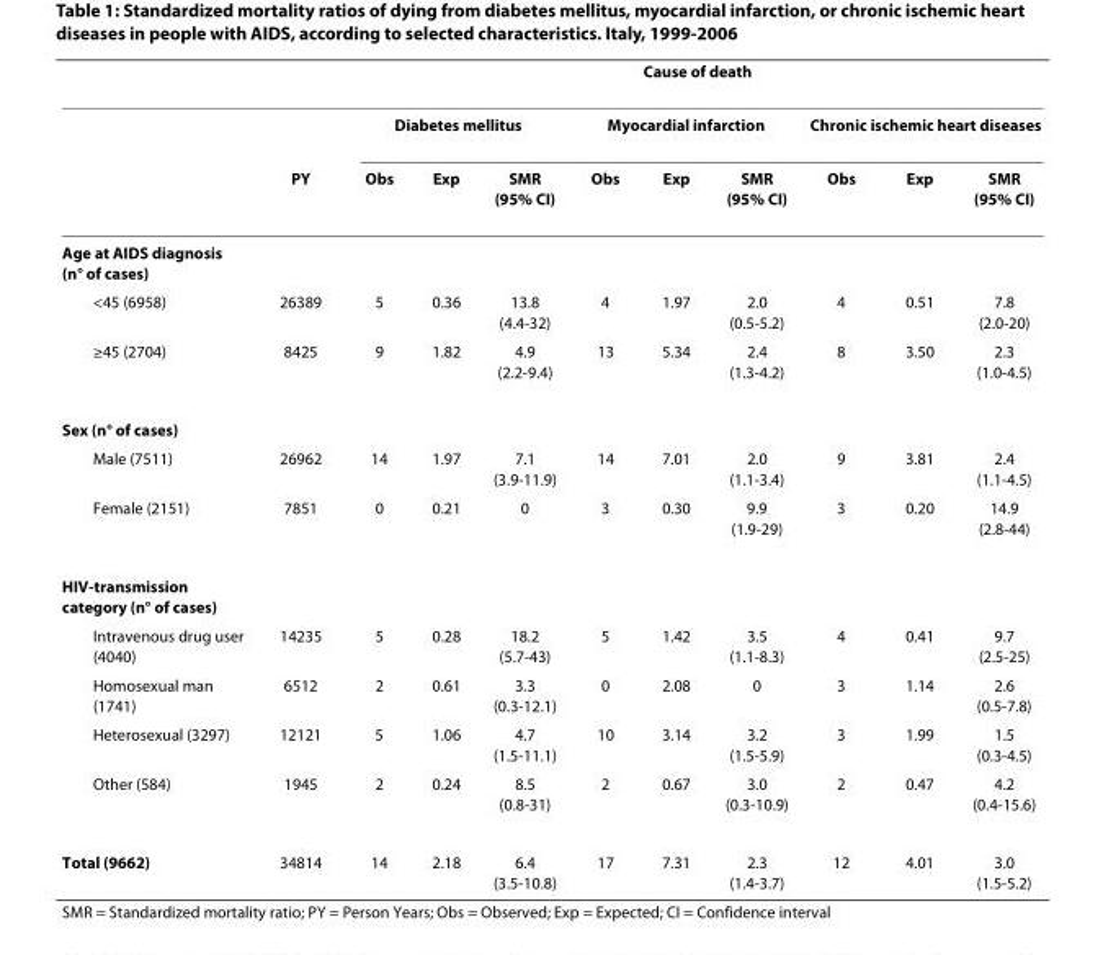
<table><thead><tr><td rowspan="3"></td><td rowspan="3">PY</td><td colspan="9">Cause of death</td></tr><tr><td colspan="3">Diabetes mellitus</td><td colspan="3">Myocardial infarction</td><td colspan="3">Chronic ischemic heart diseases</td></tr><tr><td>Obs</td><td>Exp</td><td>SMR (95% CI)</td><td>Obs</td><td>Exp</td><td>SMR (95% CI)</td><td>Obs</td><td>Exp</td><td>SMR (95% CI)</td></tr></thead><tbody><tr><td colspan="11">Age at AIDS diagnosis (n° of cases)</td></tr><tr><td>&lt;45 (6958)</td><td>26389</td><td>5</td><td>0.36</td><td>13.8 (4.4-32)</td><td>4</td><td>1.97</td><td>2.0 (0.5-5.2)</td><td>4</td><td>0.51</td><td>7.8 (2.0-20)</td></tr><tr><td>≥45 (2704)</td><td>8425</td><td>9</td><td>1.82</td><td>4.9 (2.2-9.4)</td><td>13</td><td>5.34</td><td>2.4 (1.3-4.2)</td><td>8</td><td>3.50</td><td>2.3 (1.0-4.5)</td></tr><tr><td colspan="11">Sex (n° of cases)</td></tr><tr><td>Male (7511)</td><td>26962</td><td>14</td><td>1.97</td><td>7.1 (3.9-11.9)</td><td>14</td><td>7.01</td><td>2.0 (1.1-3.4)</td><td>9</td><td>3.81</td><td>2.4 (1.1-4.5)</td></tr><tr><td>Female (2151)</td><td>7851</td><td>0</td><td>0.21</td><td>0</td><td>3</td><td>0.30</td><td>9.9 (1.9-29)</td><td>3</td><td>0.20</td><td>14.9 (2.8-44)</td></tr><tr><td colspan="11">HIV-transmission category (n° of cases)</td></tr><tr><td>Intravenous drug user (4040)</td><td>14235</td><td>5</td><td>0.28</td><td>18.2 (5.7-43)</td><td>5</td><td>1.42</td><td>3.5 (1.1-8.3)</td><td>4</td><td>0.41</td><td>9.7 (2.5-25)</td></tr><tr><td>Homosexual man (1741)</td><td>6512</td><td>2</td><td>0.61</td><td>3.3 (0.3-12.1)</td><td>0</td><td>2.08</td><td>0</td><td>3</td><td>1.14</td><td>2.6 (0.5-7.8)</td></tr><tr><td>Heterosexual (3297)</td><td>12121</td><td>5</td><td>1.06</td><td>4.7 (1.5-11.1)</td><td>10</td><td>3.14</td><td>3.2 (1.5-5.9)</td><td>3</td><td>1.99</td><td>1.5 (0.3-4.5)</td></tr><tr><td>Other (584)</td><td>1945</td><td>2</td><td>0.24</td><td>8.5 (0.8-31)</td><td>2</td><td>0.67</td><td>3.0 (0.3-10.9)</td><td>2</td><td>0.47</td><td>4.2 (0.4-15.6)</td></tr><tr><td>Total (9662)</td><td>34814</td><td>14</td><td>2.18</td><td>6.4 (3.5-10.8)</td><td>17</td><td>7.31</td><td>2.3 (1.4-3.7)</td><td>12</td><td>4.01</td><td>3.0 (1.5-5.2)</td></tr></tbody></table>